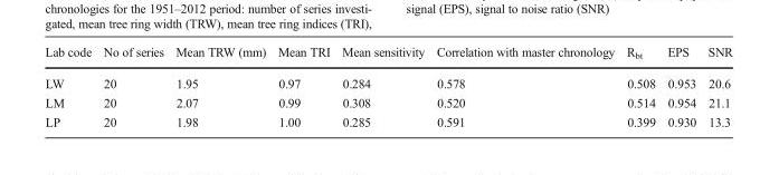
<table><thead><tr><td>Lab code</td><td>No of series</td><td>Mean TRW (mm)</td><td>Mean TRI</td><td>Mean sensitivity</td><td>Correlation with master chronology</td><td>R<sub>bt</sub></td><td>EPS</td><td>SNR</td></tr></thead><tbody><tr><td>LW</td><td>20</td><td>1.95</td><td>0.97</td><td>0.284</td><td>0.578</td><td>0.508</td><td>0.953</td><td>20.6</td></tr><tr><td>LM</td><td>20</td><td>2.07</td><td>0.99</td><td>0.308</td><td>0.520</td><td>0.514</td><td>0.954</td><td>21.1</td></tr><tr><td>LP</td><td>20</td><td>1.98</td><td>1.00</td><td>0.285</td><td>0.591</td><td>0.399</td><td>0.930</td><td>13.3</td></tr></tbody></table>